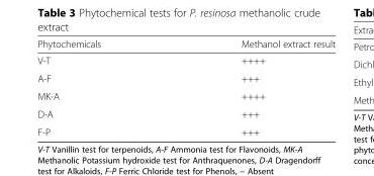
<table><thead><tr><td>Phytochemicals</td><td>Methanol extract result</td></tr></thead><tbody><tr><td>V-T</td><td>++++</td></tr><tr><td>A-F</td><td>+++</td></tr><tr><td>MK-A</td><td>++++</td></tr><tr><td>D-A</td><td>+++</td></tr><tr><td>F-P</td><td>+++</td></tr></tbody></table>